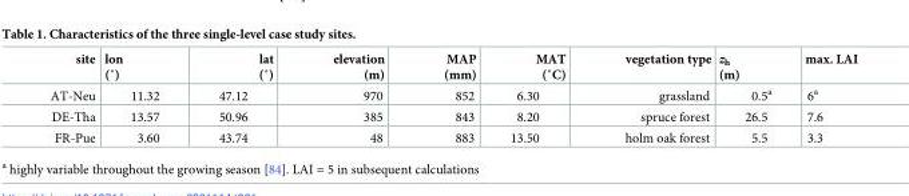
<table><thead><tr><td>site</td><td>lon (˚)</td><td>lat (˚)</td><td>elevation (m)</td><td>MAP (mm)</td><td>MAT (˚C)</td><td>vegetation type</td><td>z<sub>h</sub> (m)</td><td>max. LAI</td></tr></thead><tbody><tr><td>AT-Neu</td><td>11.32</td><td>47.12</td><td>970</td><td>852</td><td>6.30</td><td>grassland</td><td>0.5<sup>a</sup></td><td>6<sup>a</sup></td></tr><tr><td>DE-Tha</td><td>13.57</td><td>50.96</td><td>385</td><td>843</td><td>8.20</td><td>spruce forest</td><td>26.5</td><td>7.6</td></tr><tr><td>FR-Pue</td><td>3.60</td><td>43.74</td><td>48</td><td>883</td><td>13.50</td><td>holm oak forest</td><td>5.5</td><td>3.3</td></tr></tbody></table>